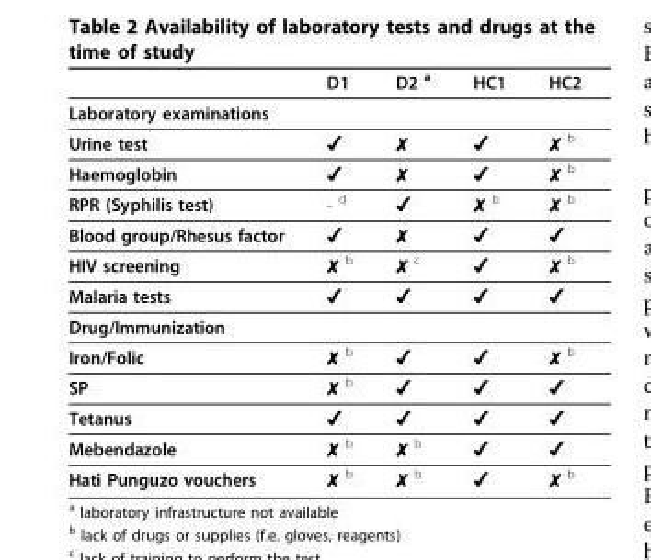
<table><thead><tr><td></td><td>D1</td><td>D2 <sup>a</sup></td><td>HC1</td><td>HC2</td></tr></thead><tbody><tr><td colspan="5">Laboratory examinations</td></tr><tr><td>Urine test</td><td>✔</td><td>✘</td><td>✔</td><td>✘ <sup>b</sup></td></tr><tr><td>Haemoglobin</td><td>✔</td><td>✘</td><td>✔</td><td>✘ <sup>b</sup></td></tr><tr><td>RPR (Syphilis test)</td><td>- <sup>d</sup></td><td>✔</td><td>✘ <sup>b</sup></td><td>✘ <sup>b</sup></td></tr><tr><td>Blood group/Rhesus factor</td><td>✔</td><td>✘</td><td>✔</td><td>✔</td></tr><tr><td>HIV screening</td><td>✘ <sup>b</sup></td><td>✘ <sup>c</sup></td><td>✔</td><td>✘ <sup>b</sup></td></tr><tr><td>Malaria tests</td><td>✔</td><td>✔</td><td>✔</td><td>✔</td></tr><tr><td colspan="5">Drug/Immunization</td></tr><tr><td>Iron/Folic</td><td>✘ <sup>b</sup></td><td>✔</td><td>✔</td><td>✘ <sup>b</sup></td></tr><tr><td>SP</td><td>✘ <sup>b</sup></td><td>✔</td><td>✔</td><td>✔</td></tr><tr><td>Tetanus</td><td>✔</td><td>✔</td><td>✔</td><td>✔</td></tr><tr><td>Mebendazole</td><td>✘ <sup>b</sup></td><td>✘ <sup>b</sup></td><td>✔</td><td>✔</td></tr><tr><td>Hati Punguzo vouchers</td><td>✘ <sup>b</sup></td><td>✘ <sup>b</sup></td><td>✔</td><td>✘ <sup>b</sup></td></tr></tbody></table>